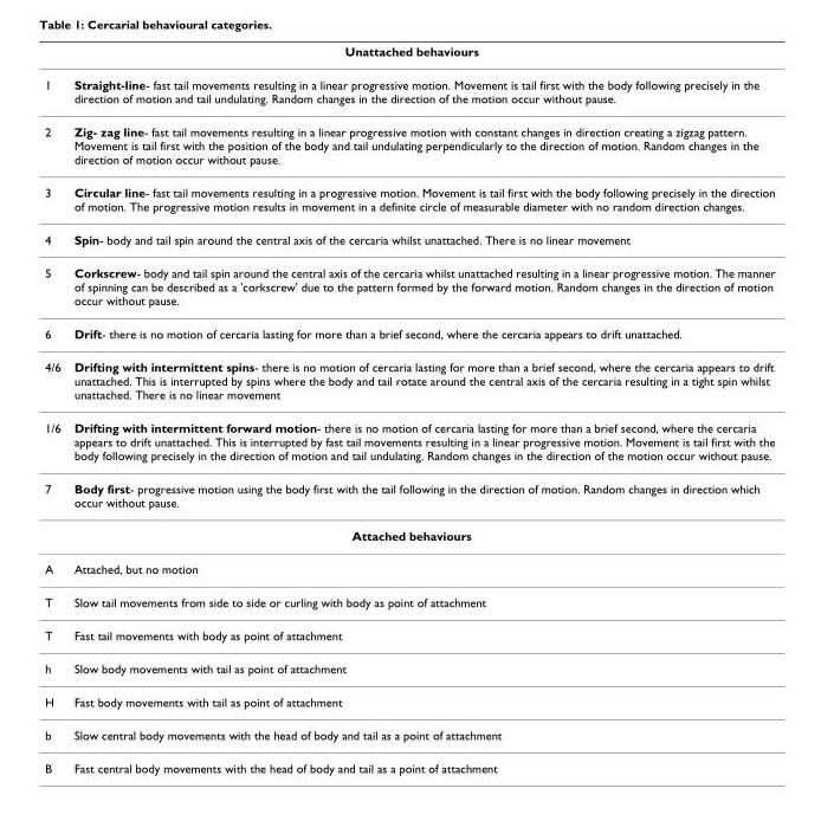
<table><thead><tr><td colspan="2">Unattached behaviours</td></tr><tr><td>1</td><td>Straight-line- fast tail movements resulting in a linear progressive motion. Movement is tail first with the body following precisely in the direction of motion and tail undulating. Random changes in the direction of the motion occur without pause.</td></tr></thead><tbody><tr><td>2</td><td>Zig- zag line- fast tail movements resulting in a linear progressive motion with constant changes in direction creating a zigzag pattern. Movement is tail first with the position of the body and tail undulating perpendicularly to the direction of motion. Random changes in the direction of motion occur without pause.</td></tr><tr><td>3</td><td>Circular line- fast tail movements resulting in a progressive motion. Movement is tail first with the body following precisely in the direction of motion. The progressive motion results in movement in a definite circle of measurable diameter with no random direction changes.</td></tr><tr><td>4</td><td>Spin- body and tail spin around the central axis of the cercaria whilst unattached. There is no linear movement</td></tr><tr><td>5</td><td>Corkscrew- body and tail spin around the central axis of the cercaria whilst unattached resulting in a linear progressive motion. The manner of spinning can be described as a &#x27;corkscrew&#x27; due to the pattern formed by the forward motion. Random changes in the direction of motion occur without pause.</td></tr><tr><td>6</td><td>Drift- there is no motion of cercaria lasting for more than a brief second, where the cercaria appears to drift unattached.</td></tr><tr><td>4/6</td><td>Drifting with intermittent spins- there is no motion of cercaria lasting for more than a brief second, where the cercaria appears to drift unattached. This is interrupted by spins where the body and tail rotate around the central axis of the cercaria resulting in a tight spin whilst unattached. There is no linear movement</td></tr><tr><td>1/6</td><td>Drifting with intermittent forward motion- there is no motion of cercaria lasting for more than a brief second, where the cercaria appears to drift unattached. This is interrupted by fast tail movements resulting in a linear progressive motion. Movement is tail first with the body following precisely in the direction of motion and tail undulating. Random changes in the direction of the motion occur without pause.</td></tr><tr><td>7</td><td>Body first- progressive motion using the body first with the tail following in the direction of motion. Random changes in direction which occur without pause.</td></tr><tr><td colspan="2">Attached behaviours</td></tr><tr><td>A</td><td>Attached, but no motion</td></tr><tr><td>T</td><td>Slow tail movements from side to side or curling with body as point of attachment</td></tr><tr><td>T</td><td>Fast tail movements with body as point of attachment</td></tr><tr><td>h</td><td>Slow body movements with tail as point of attachment</td></tr><tr><td>H</td><td>Fast body movements with tail as point of attachment</td></tr><tr><td>b</td><td>Slow central body movements with the head of body and tail as a point of attachment</td></tr><tr><td>B</td><td>Fast central body movements with the head of body and tail as a point of attachment</td></tr></tbody></table>